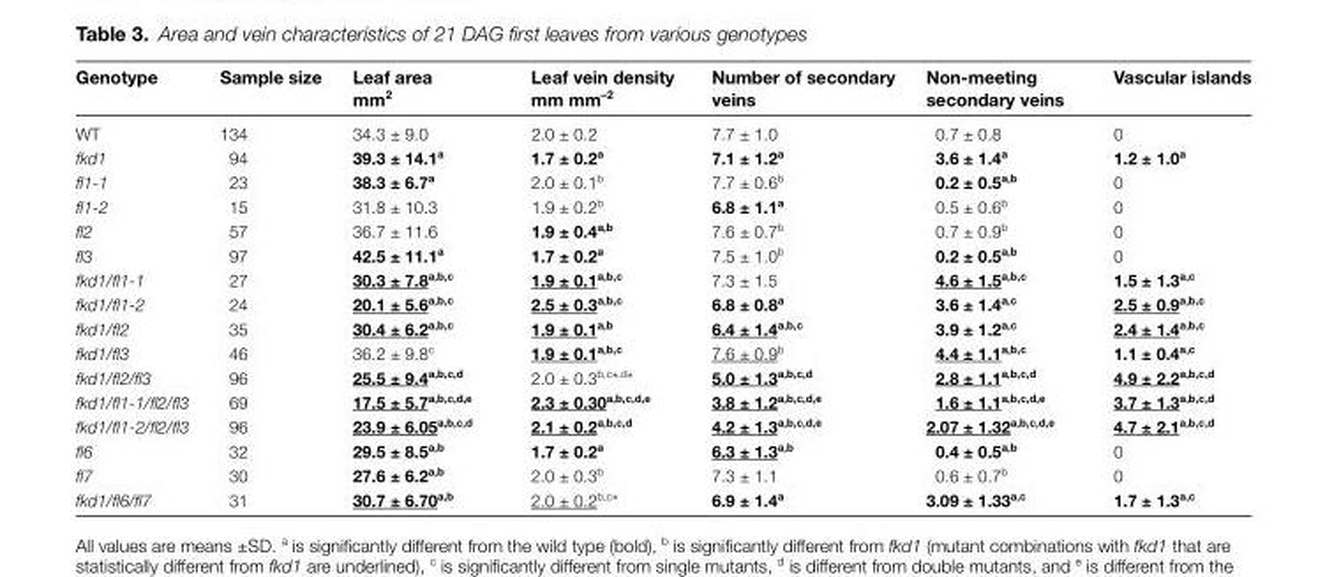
<table><thead><tr><td>Genotype</td><td>Sample size</td><td>Leaf area mm<sup>2</sup></td><td>Leaf vein density mm mm<sup>–2</sup></td><td>Number of secondary veins</td><td>Non-meeting secondary veins</td><td>Vascular islands</td></tr></thead><tbody><tr><td>WT</td><td>134</td><td>34.3 ± 9.0</td><td>2.0 ± 0.2</td><td>7.7 ± 1.0</td><td>0.7 ± 0.8</td><td>0</td></tr><tr><td>fkd1</td><td>94</td><td>39.3 ± 14.1<sup>a</sup></td><td>1.7 ± 0.2<sup>a</sup></td><td>7.1 ± 1.2<sup>a</sup></td><td>3.6 ± 1.4<sup>a</sup></td><td>1.2 ± 1.0<sup>a</sup></td></tr><tr><td>fl1-1</td><td>23</td><td>38.3 ± 6.7<sup>a</sup></td><td>2.0 ± 0.1<sup>b</sup></td><td>7.7 ± 0.6<sup>b</sup></td><td>0.2 ± 0.5<sup>a,b</sup></td><td>0</td></tr><tr><td>fl1-2</td><td>15</td><td>31.8 ± 10.3</td><td>1.9 ± 0.2<sup>b</sup></td><td>6.8 ± 1.1<sup>a</sup></td><td>0.5 ± 0.6<sup>b</sup></td><td>0</td></tr><tr><td>fl2</td><td>57</td><td>36.7 ± 11.6</td><td>1.9 ± 0.4<sup>a,b</sup></td><td>7.6 ± 0.7<sup>b</sup></td><td>0.7 ± 0.9<sup>b</sup></td><td>0</td></tr><tr><td>fl3</td><td>97</td><td>42.5 ± 11.1<sup>a</sup></td><td>1.7 ± 0.2<sup>a</sup></td><td>7.5 ± 1.0<sup>b</sup></td><td>0.2 ± 0.5<sup>a,b</sup></td><td>0</td></tr><tr><td>fkd1/fl1-1</td><td>27</td><td>30.3 ± 7.8<sup>a,b,c</sup></td><td>1.9 ± 0.1<sup>a,b,c</sup></td><td>7.3 ± 1.5</td><td>4.6 ± 1.5<sup>a,b,c</sup></td><td>1.5 ± 1.3<sup>a,c</sup></td></tr><tr><td>fkd1/fl1-2</td><td>24</td><td>20.1 ± 5.6<sup>a,b,c</sup></td><td>2.5 ± 0.3<sup>a,b,c</sup></td><td>6.8 ± 0.8<sup>a</sup></td><td>3.6 ± 1.4<sup>a,c</sup></td><td>2.5 ± 0.9<sup>a,b,c</sup></td></tr><tr><td>fkd1/fl2</td><td>35</td><td>30.4 ± 6.2<sup>a,b,c</sup></td><td>1.9 ± 0.1<sup>a,b</sup></td><td>6.4 ± 1.4<sup>a,b,c</sup></td><td>3.9 ± 1.2<sup>a,c</sup></td><td>2.4 ± 1.4<sup>a,b,c</sup></td></tr><tr><td>fkd1/fl3</td><td>46</td><td>36.2 ± 9.8<sup>c</sup></td><td>1.9 ± 0.1<sup>a,b,c</sup></td><td>7.6 ± 0.9<sup>b</sup></td><td>4.4 ± 1.1<sup>a,b,c</sup></td><td>1.1 ± 0.4<sup>a,c</sup></td></tr><tr><td>fkd1/fl2/fl3</td><td>96</td><td>25.5 ± 9.4<sup>a,b,c,d</sup></td><td>2.0 ± 0.3<sup>b,c</sup>*<sup>,d</sup>*</td><td>5.0 ± 1.3<sup>a,b,c,d</sup></td><td>2.8 ± 1.1<sup>a,b,c,d</sup></td><td>4.9 ± 2.2<sup>a,b,c,d</sup></td></tr><tr><td>fkd1/fl1-1/fl2/fl3</td><td>69</td><td>17.5 ± 5.7<sup>a,b,c,d,e</sup></td><td>2.3 ± 0.30<sup>a,b,c,d,e</sup></td><td>3.8 ± 1.2<sup>a,b,c,d,e</sup></td><td>1.6 ± 1.1<sup>a,b,c,d,e</sup></td><td>3.7 ± 1.3<sup>a,b,c,d</sup></td></tr><tr><td>fkd1/fl1-2/fl2/fl3</td><td>96</td><td>23.9 ± 6.05<sup>a,b,c,d</sup></td><td>2.1 ± 0.2<sup>a,b,c,d</sup></td><td>4.2 ± 1.3<sup>a,b,c,d,e</sup></td><td>2.07 ± 1.32<sup>a,b,c,d,e</sup></td><td>4.7 ± 2.1<sup>a,b,c,d</sup></td></tr><tr><td>fl6</td><td>32</td><td>29.5 ± 8.5<sup>a,b</sup></td><td>1.7 ± 0.2<sup>a</sup></td><td>6.3 ± 1.3<sup>a,b</sup></td><td>0.4 ± 0.5<sup>a,b</sup></td><td>0</td></tr><tr><td>fl7</td><td>30</td><td>27.6 ± 6.2<sup>a,b</sup></td><td>2.0 ± 0.3<sup>b</sup></td><td>7.3 ± 1.1</td><td>0.6 ± 0.7<sup>b</sup></td><td>0</td></tr><tr><td>fkd1/fl6/fl7</td><td>31</td><td>30.7 ± 6.70<sup>a,b</sup></td><td>2.0 ± 0.2<sup>b,c</sup>*</td><td>6.9 ± 1.4<sup>a</sup></td><td>3.09 ± 1.33<sup>a,c</sup></td><td>1.7 ± 1.3<sup>a,c</sup></td></tr></tbody></table>